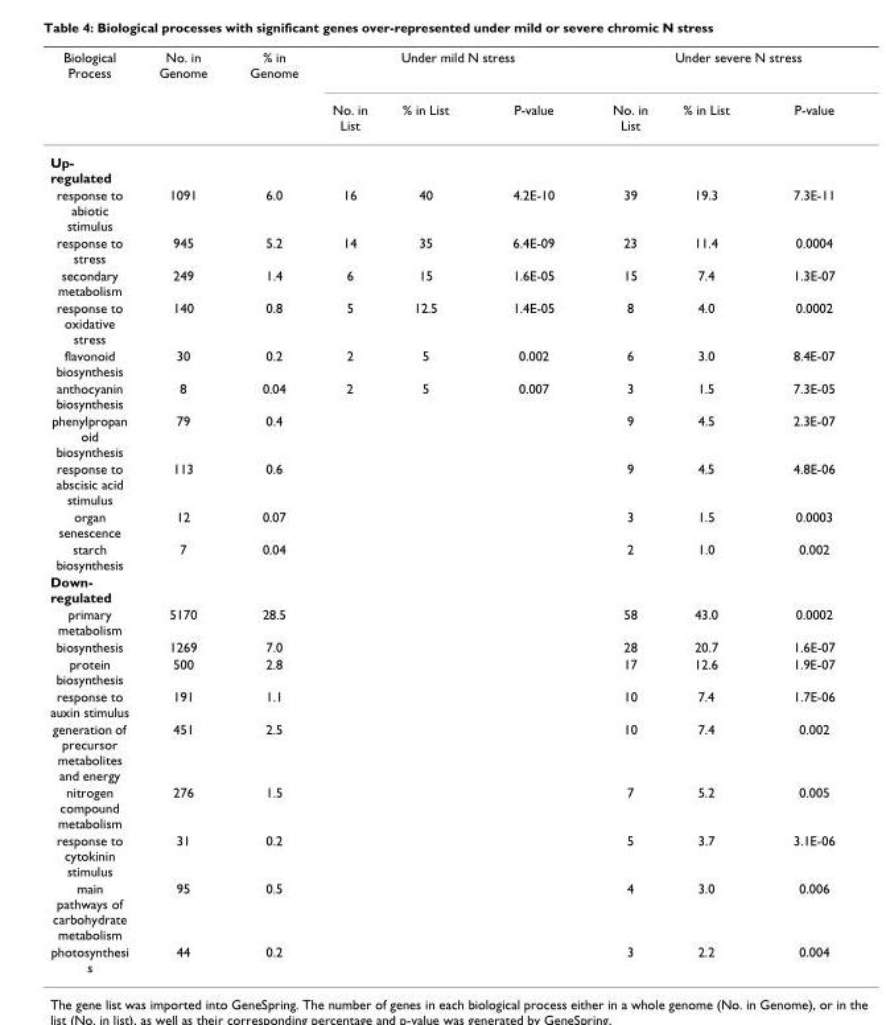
<table><thead><tr><td rowspan="2">Biological Process</td><td rowspan="2">No. in Genome</td><td rowspan="2">% in Genome</td><td colspan="3">Under mild N stress</td><td colspan="3">Under severe N stress</td></tr><tr><td>No. in List</td><td>% in List</td><td>P-value</td><td>No. in List</td><td>% in List</td><td>P-value</td></tr></thead><tbody><tr><td colspan="9">Up- regulated</td></tr><tr><td>response to abiotic stimulus</td><td>1091</td><td>6.0</td><td>16</td><td>40</td><td>4.2E-10</td><td>39</td><td>19.3</td><td>7.3E-11</td></tr><tr><td>response to stress</td><td>945</td><td>5.2</td><td>14</td><td>35</td><td>6.4E-09</td><td>23</td><td>11.4</td><td>0.0004</td></tr><tr><td>secondary metabolism</td><td>249</td><td>1.4</td><td>6</td><td>15</td><td>1.6E-05</td><td>15</td><td>7.4</td><td>1.3E-07</td></tr><tr><td>response to oxidative stress</td><td>140</td><td>0.8</td><td>5</td><td>12.5</td><td>1.4E-05</td><td>8</td><td>4.0</td><td>0.0002</td></tr><tr><td>flavonoid biosynthesis</td><td>30</td><td>0.2</td><td>2</td><td>5</td><td>0.002</td><td>6</td><td>3.0</td><td>8.4E-07</td></tr><tr><td>anthocyanin biosynthesis</td><td>8</td><td>0.04</td><td>2</td><td>5</td><td>0.007</td><td>3</td><td>1.5</td><td>7.3E-05</td></tr><tr><td>phenylpropan oid biosynthesis</td><td>79</td><td>0.4</td><td></td><td></td><td></td><td>9</td><td>4.5</td><td>2.3E-07</td></tr><tr><td>response to abscisic acid stimulus</td><td>113</td><td>0.6</td><td></td><td></td><td></td><td>9</td><td>4.5</td><td>4.8E-06</td></tr><tr><td>organ senescence</td><td>12</td><td>0.07</td><td></td><td></td><td></td><td>3</td><td>1.5</td><td>0.0003</td></tr><tr><td>starch biosynthesis</td><td>7</td><td>0.04</td><td></td><td></td><td></td><td>2</td><td>1.0</td><td>0.002</td></tr><tr><td colspan="9">Down- regulated</td></tr><tr><td>primary metabolism</td><td>5170</td><td>28.5</td><td></td><td></td><td></td><td>58</td><td>43.0</td><td>0.0002</td></tr><tr><td>biosynthesis</td><td>1269</td><td>7.0</td><td></td><td></td><td></td><td>28</td><td>20.7</td><td>1.6E-07</td></tr><tr><td>protein biosynthesis</td><td>500</td><td>2.8</td><td></td><td></td><td></td><td>17</td><td>12.6</td><td>1.9E-07</td></tr><tr><td>response to auxin stimulus</td><td>191</td><td>1.1</td><td></td><td></td><td></td><td>10</td><td>7.4</td><td>1.7E-06</td></tr><tr><td>generation of precursor metabolites and energy</td><td>451</td><td>2.5</td><td></td><td></td><td></td><td>10</td><td>7.4</td><td>0.002</td></tr><tr><td>nitrogen compound metabolism</td><td>276</td><td>1.5</td><td></td><td></td><td></td><td>7</td><td>5.2</td><td>0.005</td></tr><tr><td>response to cytokinin stimulus</td><td>31</td><td>0.2</td><td></td><td></td><td></td><td>5</td><td>3.7</td><td>3.1E-06</td></tr><tr><td>main pathways of carbohydrate metabolism</td><td>95</td><td>0.5</td><td></td><td></td><td></td><td>4</td><td>3.0</td><td>0.006</td></tr><tr><td>photosynthesi s</td><td>44</td><td>0.2</td><td></td><td></td><td></td><td>3</td><td>2.2</td><td>0.004</td></tr></tbody></table>